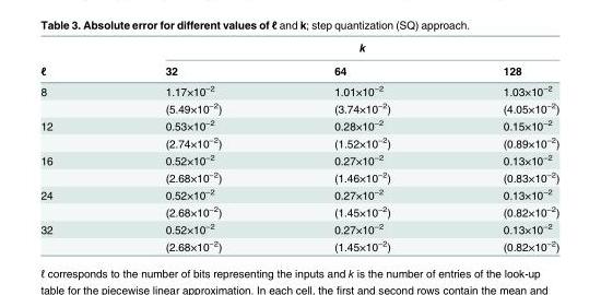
<table><thead><tr><td rowspan="2">ℓ</td><td colspan="3">k</td></tr><tr><td>32</td><td>64</td><td>128</td></tr></thead><tbody><tr><td rowspan="2">8</td><td>1.17×10<sup>−2</sup></td><td>1.01×10<sup>−2</sup></td><td>1.03×10<sup>−2</sup></td></tr><tr><td>(5.49×10<sup>−2</sup>)</td><td>(3.74×10<sup>−2</sup>)</td><td>(4.05×10<sup>−2</sup>)</td></tr><tr><td rowspan="2">12</td><td>0.53×10<sup>−2</sup></td><td>0.28×10<sup>−2</sup></td><td>0.15×10<sup>−2</sup></td></tr><tr><td>(2.74×10<sup>−2</sup>)</td><td>(1.52×10<sup>−2</sup>)</td><td>(0.89×10<sup>−2</sup>)</td></tr><tr><td rowspan="2">16</td><td>0.52×10<sup>−2</sup></td><td>0.27×10<sup>−2</sup></td><td>0.13×10<sup>−2</sup></td></tr><tr><td>(2.68×10<sup>−2</sup>)</td><td>(1.46×10<sup>−2</sup>)</td><td>(0.83×10<sup>−2</sup>)</td></tr><tr><td rowspan="2">24</td><td>0.52×10<sup>−2</sup></td><td>0.27×10<sup>−2</sup></td><td>0.13×10<sup>−2</sup></td></tr><tr><td>(2.68×10<sup>−2</sup>)</td><td>(1.45×10<sup>−2</sup>)</td><td>(0.82×10<sup>−2</sup>)</td></tr><tr><td rowspan="2">32</td><td>0.52×10<sup>−2</sup></td><td>0.27×10<sup>−2</sup></td><td>0.13×10<sup>−2</sup></td></tr><tr><td>(2.68×10<sup>−2</sup>)</td><td>(1.45×10<sup>−2</sup>)</td><td>(0.82×10<sup>−2</sup>)</td></tr></tbody></table>